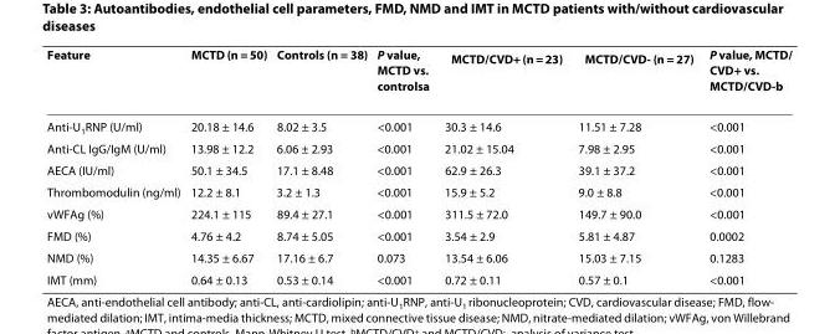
<table><thead><tr><td>Feature</td><td>MCTD (n = 50)</td><td>Controls (n = 38)</td><td>P value, MCTD vs. controls<sup>a</sup></td><td>MCTD/CVD<sup>+</sup> (n = 23)</td><td>MCTD/CVD<sup>-</sup> (n = 27)</td><td>P value, MCTD/ CVD<sup>+</sup> vs. MCTD/CVD<sup>-b</sup></td></tr></thead><tbody><tr><td>Anti-U<sub>1</sub>RNP (U/ml)</td><td>20.18 ± 14.6</td><td>8.02 ± 3.5</td><td>&lt;0.001</td><td>30.3 ± 14.6</td><td>11.51 ± 7.28</td><td>&lt;0.001</td></tr><tr><td>Anti-CL IgG/IgM (U/ml)</td><td>13.98 ± 12.2</td><td>6.06 ± 2.93</td><td>&lt;0.001</td><td>21.02 ± 15.04</td><td>7.98 ± 2.95</td><td>&lt;0.001</td></tr><tr><td>AECA (IU/ml)</td><td>50.1 ± 34.5</td><td>17.1 ± 8.48</td><td>&lt;0.001</td><td>62.9 ± 26.3</td><td>39.1 ± 37.2</td><td>&lt;0.001</td></tr><tr><td>Thrombomodulin (ng/ml)</td><td>12.2 ± 8.1</td><td>3.2 ± 1.3</td><td>&lt;0.001</td><td>15.9 ± 5.2</td><td>9.0 ± 8.8</td><td>&lt;0.001</td></tr><tr><td>vWFAg (%)</td><td>224.1 ± 115</td><td>89.4 ± 27.1</td><td>&lt;0.001</td><td>311.5 ± 72.0</td><td>149.7 ± 90.0</td><td>&lt;0.001</td></tr><tr><td>FMD (%)</td><td>4.76 ± 4.2</td><td>8.74 ± 5.05</td><td>&lt;0.001</td><td>3.54 ± 2.9</td><td>5.81 ± 4.87</td><td>0.0002</td></tr><tr><td>NMD (%)</td><td>14.35 ± 6.67</td><td>17.16 ± 6.7</td><td>0.073</td><td>13.54 ± 6.06</td><td>15.03 ± 7.15</td><td>0.1283</td></tr><tr><td>IMT (mm)</td><td>0.64 ± 0.13</td><td>0.53 ± 0.14</td><td>&lt;0.001</td><td>0.72 ± 0.11</td><td>0.57 ± 0.1</td><td>&lt;0.001</td></tr></tbody></table>